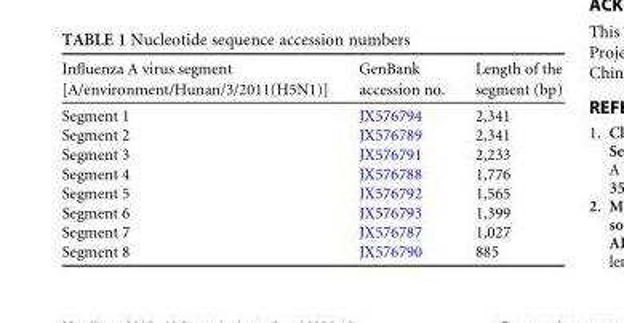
<table><thead><tr><td>Influenza A virus segment [A/environment/Hunan/3/2011(H5N1)]</td><td>GenBank accession no.</td><td>Length of the segment (bp)</td></tr></thead><tbody><tr><td>Segment 1</td><td>JX576794</td><td>2,341</td></tr><tr><td>Segment 2</td><td>JX576789</td><td>2,341</td></tr><tr><td>Segment 3</td><td>JX576791</td><td>2,233</td></tr><tr><td>Segment 4</td><td>JX576788</td><td>1,776</td></tr><tr><td>Segment 5</td><td>JX576792</td><td>1,565</td></tr><tr><td>Segment 6</td><td>JX576793</td><td>1,399</td></tr><tr><td>Segment 7</td><td>JX576787</td><td>1,027</td></tr><tr><td>Segment 8</td><td>JX576790</td><td>885</td></tr></tbody></table>